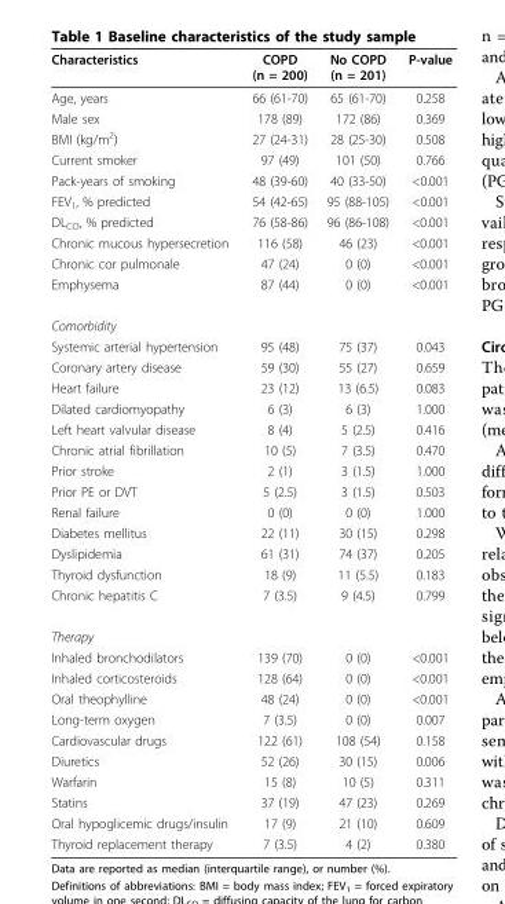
<table><thead><tr><td>Characteristics</td><td>COPD (n = 200)</td><td>No COPD (n = 201)</td><td>P-value</td></tr></thead><tbody><tr><td>Age, years</td><td>66 (61-70)</td><td>65 (61-70)</td><td>0.258</td></tr><tr><td>Male sex</td><td>178 (89)</td><td>172 (86)</td><td>0.369</td></tr><tr><td>BMI (kg/m<sup>2</sup>)</td><td>27 (24-31)</td><td>28 (25-30)</td><td>0.508</td></tr><tr><td>Current smoker</td><td>97 (49)</td><td>101 (50)</td><td>0.766</td></tr><tr><td>Pack-years of smoking</td><td>48 (39-60)</td><td>40 (33-50)</td><td>&lt;0.001</td></tr><tr><td>FEV<sub>1</sub>, % predicted</td><td>54 (42-65)</td><td>95 (88-105)</td><td>&lt;0.001</td></tr><tr><td>DL<sub>CO</sub>, % predicted</td><td>76 (58-86)</td><td>96 (86-108)</td><td>&lt;0.001</td></tr><tr><td>Chronic mucous hypersecretion</td><td>116 (58)</td><td>46 (23)</td><td>&lt;0.001</td></tr><tr><td>Chronic cor pulmonale</td><td>47 (24)</td><td>0 (0)</td><td>&lt;0.001</td></tr><tr><td>Emphysema</td><td>87 (44)</td><td>0 (0)</td><td>&lt;0.001</td></tr><tr><td colspan="4">Comorbidity</td></tr><tr><td>Systemic arterial hypertension</td><td>95 (48)</td><td>75 (37)</td><td>0.043</td></tr><tr><td>Coronary artery disease</td><td>59 (30)</td><td>55 (27)</td><td>0.659</td></tr><tr><td>Heart failure</td><td>23 (12)</td><td>13 (6.5)</td><td>0.083</td></tr><tr><td>Dilated cardiomyopathy</td><td>6 (3)</td><td>6 (3)</td><td>1.000</td></tr><tr><td>Left heart valvular disease</td><td>8 (4)</td><td>5 (2.5)</td><td>0.416</td></tr><tr><td>Chronic atrial fibrillation</td><td>10 (5)</td><td>7 (3.5)</td><td>0.470</td></tr><tr><td>Prior stroke</td><td>2 (1)</td><td>3 (1.5)</td><td>1.000</td></tr><tr><td>Prior PE or DVT</td><td>5 (2.5)</td><td>3 (1.5)</td><td>0.503</td></tr><tr><td>Renal failure</td><td>0 (0)</td><td>0 (0)</td><td>1.000</td></tr><tr><td>Diabetes mellitus</td><td>22 (11)</td><td>30 (15)</td><td>0.298</td></tr><tr><td>Dyslipidemia</td><td>61 (31)</td><td>74 (37)</td><td>0.205</td></tr><tr><td>Thyroid dysfunction</td><td>18 (9)</td><td>11 (5.5)</td><td>0.183</td></tr><tr><td>Chronic hepatitis C</td><td>7 (3.5)</td><td>9 (4.5)</td><td>0.799</td></tr><tr><td colspan="4">Therapy</td></tr><tr><td>Inhaled bronchodilators</td><td>139 (70)</td><td>0 (0)</td><td>&lt;0.001</td></tr><tr><td>Inhaled corticosteroids</td><td>128 (64)</td><td>0 (0)</td><td>&lt;0.001</td></tr><tr><td>Oral theophylline</td><td>48 (24)</td><td>0 (0)</td><td>&lt;0.001</td></tr><tr><td>Long-term oxygen</td><td>7 (3.5)</td><td>0 (0)</td><td>0.007</td></tr><tr><td>Cardiovascular drugs</td><td>122 (61)</td><td>108 (54)</td><td>0.158</td></tr><tr><td>Diuretics</td><td>52 (26)</td><td>30 (15)</td><td>0.006</td></tr><tr><td>Warfarin</td><td>15 (8)</td><td>10 (5)</td><td>0.311</td></tr><tr><td>Statins</td><td>37 (19)</td><td>47 (23)</td><td>0.269</td></tr><tr><td>Oral hypoglicemic drugs/insulin</td><td>17 (9)</td><td>21 (10)</td><td>0.609</td></tr><tr><td>Thyroid replacement therapy</td><td>7 (3.5)</td><td>4 (2)</td><td>0.380</td></tr></tbody></table>